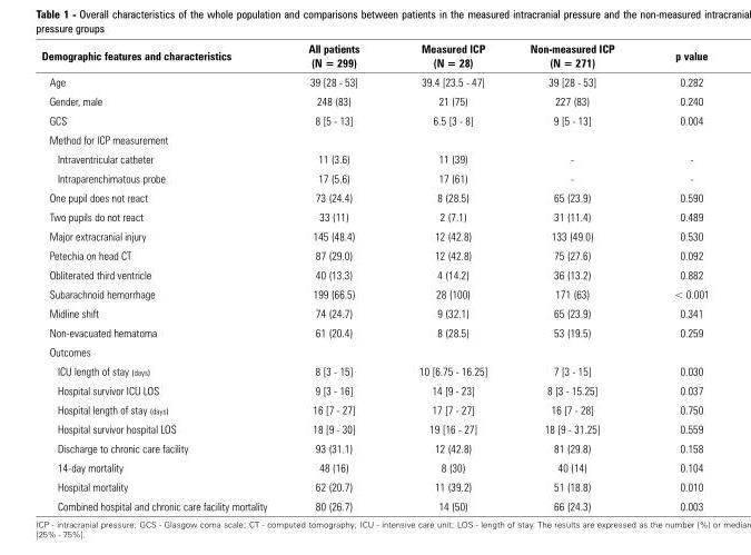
<table><thead><tr><td rowspan="2">Demographic features and characteristics</td><td rowspan="2">All patients (N = 299)</td><td rowspan="2">Measured ICP (N = 28)</td><td rowspan="2">Non-measured ICP (N = 271)</td><td rowspan="2">p value</td></tr><tr></tr></thead><tbody><tr><td>Age</td><td>39 [28 - 53]</td><td>39.4 [23.5 - 47]</td><td>39 [28 - 53]</td><td>0.282</td></tr><tr><td>Gender, male</td><td>248 (83)</td><td>21 (75)</td><td>227 (83)</td><td>0.240</td></tr><tr><td>GCS</td><td>8 [5 - 13]</td><td>6.5 [3 - 8]</td><td>9 [5 - 13]</td><td>0.004</td></tr><tr><td colspan="5">Method for ICP measurement</td></tr><tr><td>Intraventricular catheter</td><td>11 (3.6)</td><td>11 (39)</td><td>-</td><td>-</td></tr><tr><td>Intraparenchimatous probe</td><td>17 (5.6)</td><td>17 (61)</td><td>-</td><td>-</td></tr><tr><td>One pupil does not react</td><td>73 (24.4)</td><td>8 (28.5)</td><td>65 (23.9)</td><td>0.590</td></tr><tr><td>Two pupils do not react</td><td>33 (11)</td><td>2 (7.1)</td><td>31 (11.4)</td><td>0.489</td></tr><tr><td>Major extracranial injury</td><td>145 (48.4)</td><td>12 (42.8)</td><td>133 (49.0)</td><td>0.530</td></tr><tr><td>Petechia on head CT</td><td>87 (29.0)</td><td>12 (42.8)</td><td>75 (27.6)</td><td>0.092</td></tr><tr><td>Obliterated third ventricle</td><td>40 (13.3)</td><td>4 (14.2)</td><td>36 (13.2)</td><td>0.882</td></tr><tr><td>Subarachnoid hemorrhage</td><td>199 (66.5)</td><td>28 (100)</td><td>171 (63)</td><td>&lt; 0.001</td></tr><tr><td>Midline shift</td><td>74 (24.7)</td><td>9 (32.1)</td><td>65 (23.9)</td><td>0.341</td></tr><tr><td>Non-evacuated hematoma</td><td>61 (20.4)</td><td>8 (28.5)</td><td>53 (19.5)</td><td>0.259</td></tr><tr><td colspan="5">Outcomes</td></tr><tr><td>ICU length of stay (days)</td><td>8 [3 - 15]</td><td>10 [6.75 - 16.25]</td><td>7 [3 - 15]</td><td>0.030</td></tr><tr><td>Hospital survivor ICU LOS</td><td>9 [3 - 16]</td><td>14 [9 - 23]</td><td>8 [3 - 15.25]</td><td>0.037</td></tr><tr><td>Hospital length of stay (days)</td><td>16 [7 - 27]</td><td>17 [7 - 27]</td><td>16 [7 - 28]</td><td>0.750</td></tr><tr><td>Hospital survivor hospital LOS</td><td>18 [9 - 30]</td><td>19 [16 - 27]</td><td>18 [9 - 31.25]</td><td>0.559</td></tr><tr><td>Discharge to chronic care facility</td><td>93 (31.1)</td><td>12 (42.8)</td><td>81 (29.8)</td><td>0.158</td></tr><tr><td>14-day mortality</td><td>48 (16)</td><td>8 (30)</td><td>40 (14)</td><td>0.104</td></tr><tr><td>Hospital mortality</td><td>62 (20.7)</td><td>11 (39.2)</td><td>51 (18.8)</td><td>0.010</td></tr><tr><td>Combined hospital and chronic care facility mortality</td><td>80 (26.7)</td><td>14 (50)</td><td>66 (24.3)</td><td>0.003</td></tr></tbody></table>